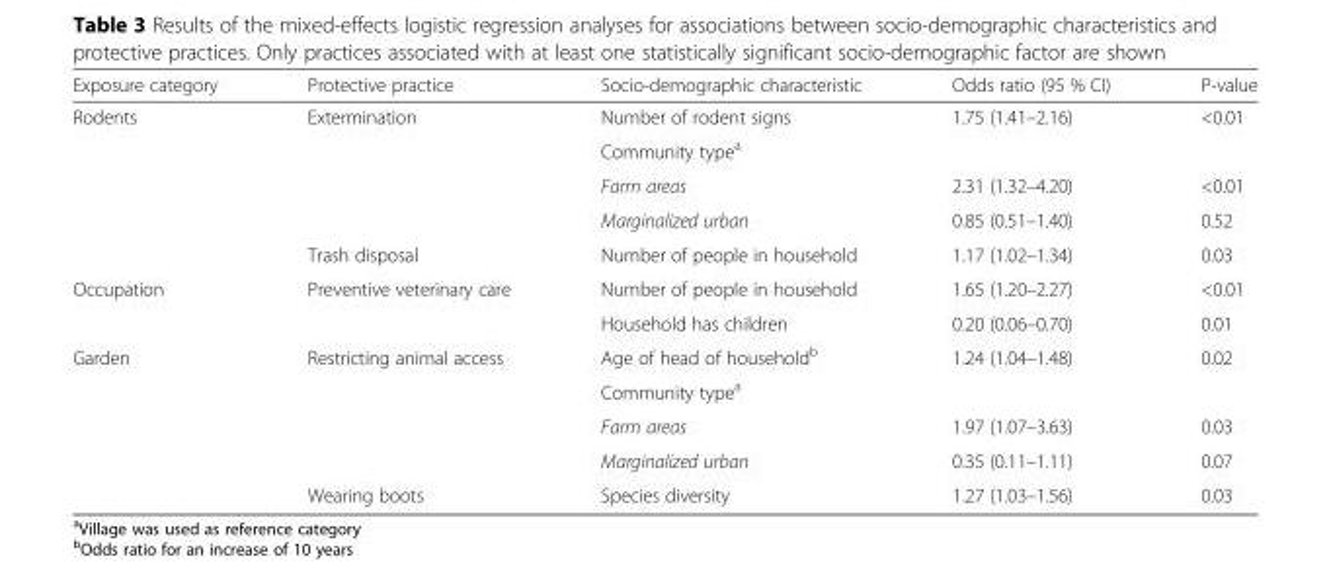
<table><thead><tr><td>Exposure category</td><td>Protective practice</td><td>Socio-demographic characteristic</td><td>Odds ratio (95 % CI)</td><td>P-value</td></tr></thead><tbody><tr><td rowspan="5">Rodents</td><td rowspan="4">Extermination</td><td>Number of rodent signs</td><td>1.75 (1.41–2.16)</td><td>&lt;0.01</td></tr><tr><td>Community type<sup>a</sup></td><td></td><td></td></tr><tr><td>Farm areas</td><td>2.31 (1.32–4.20)</td><td>&lt;0.01</td></tr><tr><td>Marginalized urban</td><td>0.85 (0.51–1.40)</td><td>0.52</td></tr><tr><td>Trash disposal</td><td>Number of people in household</td><td>1.17 (1.02–1.34)</td><td>0.03</td></tr><tr><td rowspan="2">Occupation</td><td rowspan="2">Preventive veterinary care</td><td>Number of people in household</td><td>1.65 (1.20–2.27)</td><td>&lt;0.01</td></tr><tr><td>Household has children</td><td>0.20 (0.06–0.70)</td><td>0.01</td></tr><tr><td rowspan="5">Garden</td><td rowspan="4">Restricting animal access</td><td>Age of head of household<sup>b</sup></td><td>1.24 (1.04–1.48)</td><td>0.02</td></tr><tr><td>Community type<sup>a</sup></td><td></td><td></td></tr><tr><td>Farm areas</td><td>1.97 (1.07–3.63)</td><td>0.03</td></tr><tr><td>Marginalized urban</td><td>0.35 (0.11–1.11)</td><td>0.07</td></tr><tr><td>Wearing boots</td><td>Species diversity</td><td>1.27 (1.03–1.56)</td><td>0.03</td></tr></tbody></table>